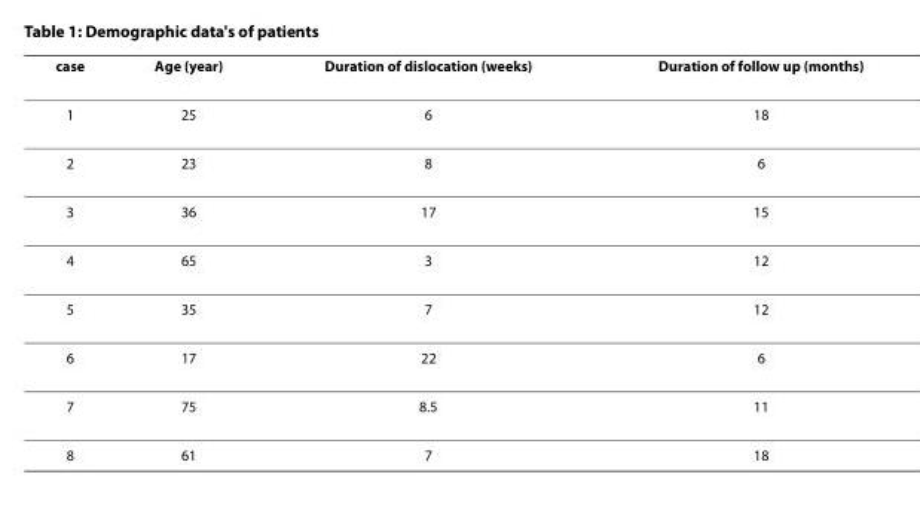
<table><thead><tr><td>case</td><td>Age (year)</td><td>Duration of dislocation (weeks)</td><td>Duration of follow up (months)</td></tr></thead><tbody><tr><td>1</td><td>25</td><td>6</td><td>18</td></tr><tr><td>2</td><td>23</td><td>8</td><td>6</td></tr><tr><td>3</td><td>36</td><td>17</td><td>15</td></tr><tr><td>4</td><td>65</td><td>3</td><td>12</td></tr><tr><td>5</td><td>35</td><td>7</td><td>12</td></tr><tr><td>6</td><td>17</td><td>22</td><td>6</td></tr><tr><td>7</td><td>75</td><td>8.5</td><td>11</td></tr><tr><td>8</td><td>61</td><td>7</td><td>18</td></tr></tbody></table>